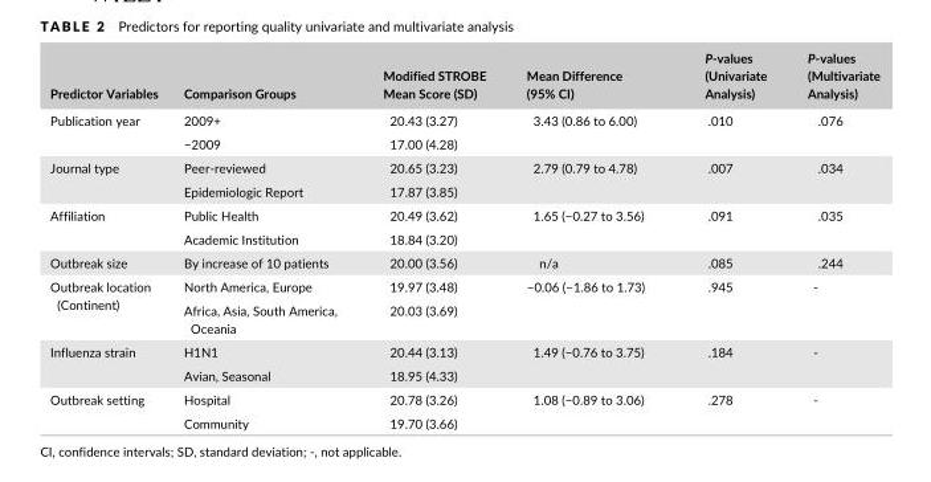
<table><thead><tr><td>Predictor Variables</td><td>Comparison Groups</td><td>Modified STROBE Mean Score (SD)</td><td>Mean Difference (95% CI)</td><td>P- values (Univariate Analysis)</td><td>P- values (Multivariate Analysis)</td></tr></thead><tbody><tr><td rowspan="2">Publication year</td><td>2009+</td><td>20.43 (3.27)</td><td rowspan="2">3.43 (0.86 to 6.00)</td><td rowspan="2">.010</td><td rowspan="2">.076</td></tr><tr><td>−2009</td><td>17.00 (4.28)</td></tr><tr><td rowspan="2">Journal type</td><td>Peer- reviewed</td><td>20.65 (3.23)</td><td rowspan="2">2.79 (0.79 to 4.78)</td><td rowspan="2">.007</td><td rowspan="2">.034</td></tr><tr><td>Epidemiologic Report</td><td>17.87 (3.85)</td></tr><tr><td rowspan="2">Affiliation</td><td>Public Health</td><td>20.49 (3.62)</td><td rowspan="2">1.65 (−0.27 to 3.56)</td><td rowspan="2">.091</td><td rowspan="2">.035</td></tr><tr><td>Academic Institution</td><td>18.84 (3.20)</td></tr><tr><td>Outbreak size</td><td>By increase of 10 patients</td><td>20.00 (3.56)</td><td>n/a</td><td>.085</td><td>.244</td></tr><tr><td rowspan="2">Outbreak location (Continent)</td><td>North America, Europe</td><td>19.97 (3.48)</td><td rowspan="2">−0.06 (−1.86 to 1.73)</td><td rowspan="2">.945</td><td rowspan="2">-</td></tr><tr><td>Africa, Asia, South America, Oceania</td><td>20.03 (3.69)</td></tr><tr><td rowspan="2">Influenza strain</td><td>H1N1</td><td>20.44 (3.13)</td><td rowspan="2">1.49 (−0.76 to 3.75)</td><td rowspan="2">.184</td><td rowspan="2">-</td></tr><tr><td>Avian, Seasonal</td><td>18.95 (4.33)</td></tr><tr><td rowspan="2">Outbreak setting</td><td>Hospital</td><td>20.78 (3.26)</td><td rowspan="2">1.08 (−0.89 to 3.06)</td><td rowspan="2">.278</td><td rowspan="2">-</td></tr><tr><td>Community</td><td>19.70 (3.66)</td></tr></tbody></table>